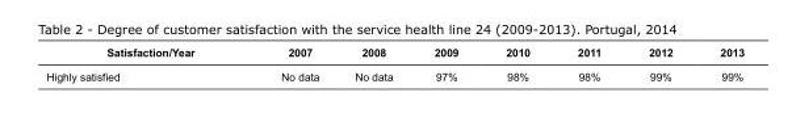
<table><thead><tr><td>Satisfaction/Year</td><td>2007</td><td>2008</td><td>2009</td><td>2010</td><td>2011</td><td>2012</td><td>2013</td></tr></thead><tbody><tr><td>Highly satisfied</td><td>No data</td><td>No data</td><td>97%</td><td>98%</td><td>98%</td><td>99%</td><td>99%</td></tr></tbody></table>